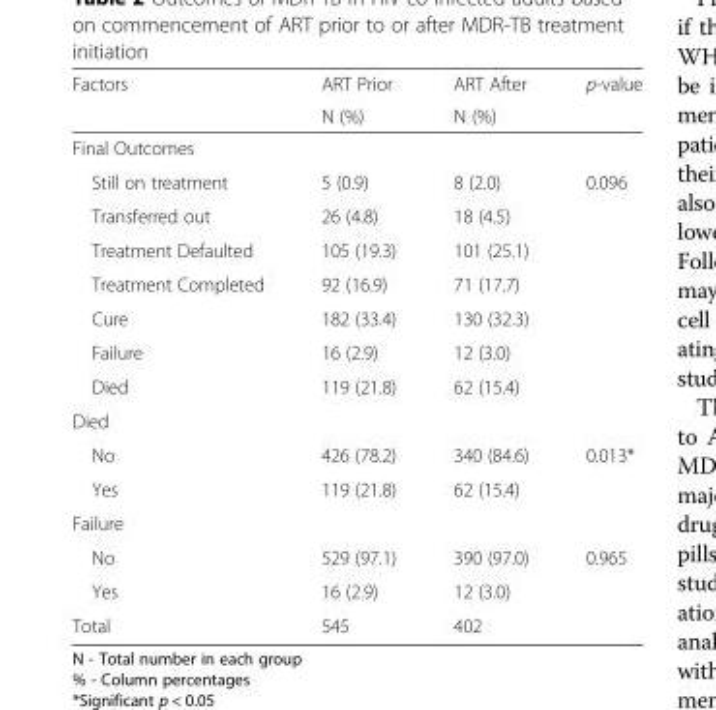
<table><thead><tr><td rowspan="2">Factors</td><td rowspan="2">ART Prior N (%)</td><td rowspan="2">ART After N (%)</td><td rowspan="2">p-value</td></tr><tr></tr></thead><tbody><tr><td colspan="4">Final Outcomes</td></tr><tr><td>Still on treatment</td><td>5 (0.9)</td><td>8 (2.0)</td><td>0.096</td></tr><tr><td>Transferred out</td><td>26 (4.8)</td><td>18 (4.5)</td><td></td></tr><tr><td>Treatment Defaulted</td><td>105 (19.3)</td><td colspan="2">101 (25.1)</td></tr><tr><td>Treatment Completed</td><td>92 (16.9)</td><td>71 (17.7)</td><td></td></tr><tr><td>Cure</td><td>182 (33.4)</td><td colspan="2">130 (32.3)</td></tr><tr><td>Failure</td><td>16 (2.9)</td><td>12 (3.0)</td><td></td></tr><tr><td>Died</td><td>119 (21.8)</td><td>62 (15.4)</td><td></td></tr><tr><td colspan="4">Died</td></tr><tr><td>No</td><td>426 (78.2)</td><td>340 (84.6)</td><td>0.013*</td></tr><tr><td>Yes</td><td>119 (21.8)</td><td>62 (15.4)</td><td></td></tr><tr><td colspan="4">Failure</td></tr><tr><td>No</td><td>529 (97.1)</td><td>390 (97.0)</td><td>0.965</td></tr><tr><td>Yes</td><td>16 (2.9)</td><td>12 (3.0)</td><td></td></tr><tr><td>Total</td><td>545</td><td>402</td><td></td></tr></tbody></table>